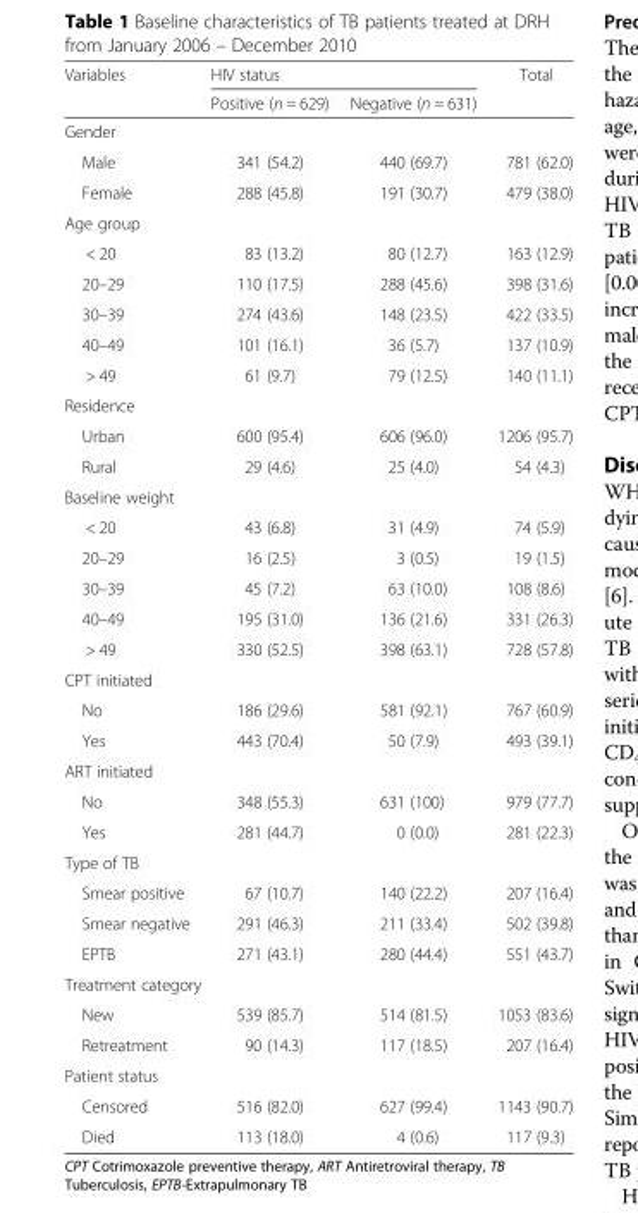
<table><thead><tr><td rowspan="2">Variables</td><td colspan="2">HIV status</td><td rowspan="2">Total</td></tr><tr><td>Positive (n = 629)</td><td>Negative (n = 631)</td></tr></thead><tbody><tr><td colspan="4">Gender</td></tr><tr><td>Male</td><td>341 (54.2)</td><td>440 (69.7)</td><td>781 (62.0)</td></tr><tr><td>Female</td><td>288 (45.8)</td><td>191 (30.7)</td><td>479 (38.0)</td></tr><tr><td colspan="4">Age group</td></tr><tr><td>&lt; 20</td><td>83 (13.2)</td><td>80 (12.7)</td><td>163 (12.9)</td></tr><tr><td>20–29</td><td>110 (17.5)</td><td>288 (45.6)</td><td>398 (31.6)</td></tr><tr><td>30–39</td><td>274 (43.6)</td><td>148 (23.5)</td><td>422 (33.5)</td></tr><tr><td>40–49</td><td>101 (16.1)</td><td>36 (5.7)</td><td>137 (10.9)</td></tr><tr><td>&gt; 49</td><td>61 (9.7)</td><td>79 (12.5)</td><td>140 (11.1)</td></tr><tr><td colspan="4">Residence</td></tr><tr><td>Urban</td><td>600 (95.4)</td><td>606 (96.0)</td><td>1206 (95.7)</td></tr><tr><td>Rural</td><td>29 (4.6)</td><td>25 (4.0)</td><td>54 (4.3)</td></tr><tr><td colspan="4">Baseline weight</td></tr><tr><td>&lt; 20</td><td>43 (6.8)</td><td>31 (4.9)</td><td>74 (5.9)</td></tr><tr><td>20–29</td><td>16 (2.5)</td><td>3 (0.5)</td><td>19 (1.5)</td></tr><tr><td>30–39</td><td>45 (7.2)</td><td>63 (10.0)</td><td>108 (8.6)</td></tr><tr><td>40–49</td><td>195 (31.0)</td><td>136 (21.6)</td><td>331 (26.3)</td></tr><tr><td>&gt; 49</td><td>330 (52.5)</td><td>398 (63.1)</td><td>728 (57.8)</td></tr><tr><td colspan="4">CPT initiated</td></tr><tr><td>No</td><td>186 (29.6)</td><td>581 (92.1)</td><td>767 (60.9)</td></tr><tr><td>Yes</td><td>443 (70.4)</td><td>50 (7.9)</td><td>493 (39.1)</td></tr><tr><td colspan="4">ART initiated</td></tr><tr><td>No</td><td>348 (55.3)</td><td>631 (100)</td><td>979 (77.7)</td></tr><tr><td>Yes</td><td>281 (44.7)</td><td>0 (0.0)</td><td>281 (22.3)</td></tr><tr><td colspan="4">Type of TB</td></tr><tr><td>Smear positive</td><td>67 (10.7)</td><td>140 (22.2)</td><td>207 (16.4)</td></tr><tr><td>Smear negative</td><td>291 (46.3)</td><td>211 (33.4)</td><td>502 (39.8)</td></tr><tr><td>EPTB</td><td>271 (43.1)</td><td>280 (44.4)</td><td>551 (43.7)</td></tr><tr><td colspan="4">Treatment category</td></tr><tr><td>New</td><td>539 (85.7)</td><td>514 (81.5)</td><td>1053 (83.6)</td></tr><tr><td>Retreatment</td><td>90 (14.3)</td><td>117 (18.5)</td><td>207 (16.4)</td></tr><tr><td colspan="4">Patient status</td></tr><tr><td>Censored</td><td>516 (82.0)</td><td>627 (99.4)</td><td>1143 (90.7)</td></tr><tr><td>Died</td><td>113 (18.0)</td><td>4 (0.6)</td><td>117 (9.3)</td></tr></tbody></table>